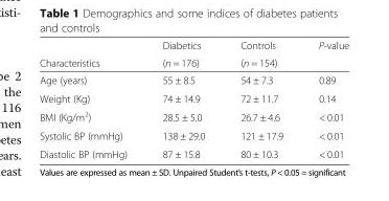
<table><thead><tr><td rowspan="2">Characteristics</td><td rowspan="2">Diabetics (n = 176)</td><td rowspan="2">Controls (n = 154)</td><td rowspan="2">P-value</td></tr><tr></tr></thead><tbody><tr><td>Age (years)</td><td>55 ± 8.5</td><td>54 ± 7.3</td><td>0.89</td></tr><tr><td>Weight (Kg)</td><td>74 ± 14.9</td><td>72 ± 11.7</td><td>0.14</td></tr><tr><td>BMI (Kg/m<sup>2</sup>)</td><td>28.5 ± 5.0</td><td>26.7 ± 4.6</td><td>&lt; 0.01</td></tr><tr><td>Systolic BP (mmHg)</td><td>138 ± 29.0</td><td>121 ± 17.9</td><td>&lt; 0.01</td></tr><tr><td>Diastolic BP (mmHg)</td><td>87 ± 15.8</td><td>80 ± 10.3</td><td>&lt; 0.01</td></tr></tbody></table>